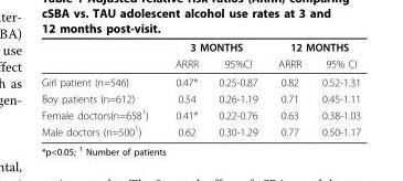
<table><thead><tr><td rowspan="2"></td><td colspan="2">3 MONTHS</td><td colspan="2">12 MONTHS</td></tr><tr><td>ARRR</td><td>95%CI</td><td>ARRR</td><td>95% CI</td></tr></thead><tbody><tr><td>Girl patient (n=546)</td><td>0.47*</td><td>0.25-0.87</td><td>0.82</td><td>0.52-1.31</td></tr><tr><td>Boy patients (n=612)</td><td>0.54</td><td>0.26-1.19</td><td>0.71</td><td>0.45-1.11</td></tr><tr><td>Female doctors(n=658<sup>1</sup>)</td><td>0.41*</td><td>0.22-0.76</td><td>0.63</td><td>0.38-1.03</td></tr><tr><td>Male doctors (n=500<sup>1</sup>)</td><td>0.62</td><td>0.30-1.29</td><td>0.77</td><td>0.50-1.17</td></tr></tbody></table>